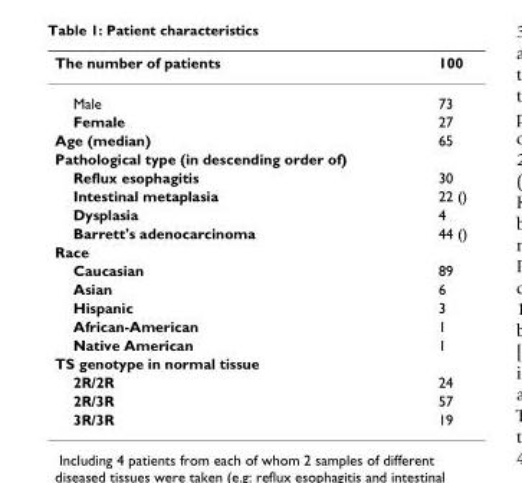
<table><thead><tr><td>The number of patients</td><td>100</td></tr></thead><tbody><tr><td>Male</td><td>73</td></tr><tr><td>Female</td><td>27</td></tr><tr><td>Age (median)</td><td>65</td></tr><tr><td colspan="2">Pathological type (in descending order of)</td></tr><tr><td>Reflux esophagitis</td><td>30</td></tr><tr><td>Intestinal metaplasia</td><td>22 ()</td></tr><tr><td>Dysplasia</td><td>4</td></tr><tr><td>Barrett&#x27;s adenocarcinoma</td><td>44 ()</td></tr><tr><td colspan="2">Race</td></tr><tr><td>Caucasian</td><td>89</td></tr><tr><td>Asian</td><td>6</td></tr><tr><td>Hispanic</td><td>3</td></tr><tr><td>African-American</td><td>1</td></tr><tr><td>Native American</td><td>1</td></tr><tr><td colspan="2">TS genotype in normal tissue</td></tr><tr><td>2R/2R</td><td>24</td></tr><tr><td>2R/3R</td><td>57</td></tr><tr><td>3R/3R</td><td>19</td></tr></tbody></table>